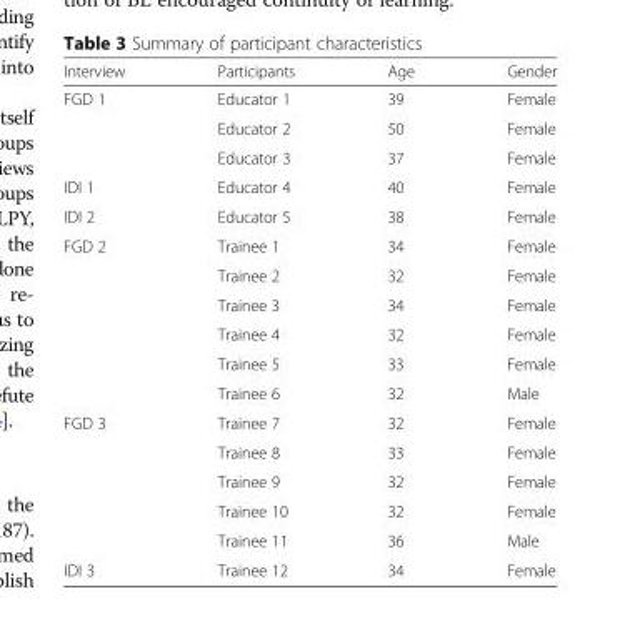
<table><thead><tr><td>Interview</td><td>Participants</td><td>Age</td><td>Gender</td></tr></thead><tbody><tr><td rowspan="3">FGD 1</td><td>Educator 1</td><td>39</td><td>Female</td></tr><tr><td>Educator 2</td><td>50</td><td>Female</td></tr><tr><td>Educator 3</td><td>37</td><td>Female</td></tr><tr><td>IDI 1</td><td>Educator 4</td><td>40</td><td>Female</td></tr><tr><td>IDI 2</td><td>Educator 5</td><td>38</td><td>Female</td></tr><tr><td rowspan="6">FGD 2</td><td>Trainee 1</td><td>34</td><td>Female</td></tr><tr><td>Trainee 2</td><td>32</td><td>Female</td></tr><tr><td>Trainee 3</td><td>34</td><td>Female</td></tr><tr><td>Trainee 4</td><td>32</td><td>Female</td></tr><tr><td>Trainee 5</td><td>33</td><td>Female</td></tr><tr><td>Trainee 6</td><td>32</td><td>Male</td></tr><tr><td rowspan="5">FGD 3</td><td>Trainee 7</td><td>32</td><td>Female</td></tr><tr><td>Trainee 8</td><td>33</td><td>Female</td></tr><tr><td>Trainee 9</td><td>32</td><td>Female</td></tr><tr><td>Trainee 10</td><td>32</td><td>Female</td></tr><tr><td>Trainee 11</td><td>36</td><td>Male</td></tr><tr><td>IDI 3</td><td>Trainee 12</td><td>34</td><td>Female</td></tr></tbody></table>